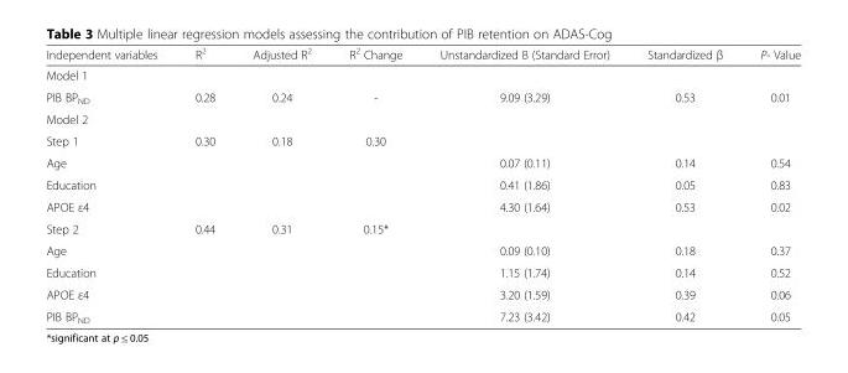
<table><thead><tr><td>Independent variables</td><td>R<sup>2</sup></td><td>Adjusted R<sup>2</sup></td><td>R<sup>2</sup> Change</td><td>Unstandardized B (Standard Error)</td><td>Standardized β</td><td>P- Value</td></tr></thead><tbody><tr><td colspan="7">Model 1</td></tr><tr><td>PIB BP<sub>ND</sub></td><td>0.28</td><td>0.24</td><td>-</td><td>9.09 (3.29)</td><td>0.53</td><td>0.01</td></tr><tr><td colspan="7">Model 2</td></tr><tr><td>Step 1</td><td>0.30</td><td>0.18</td><td>0.30</td><td></td><td></td><td></td></tr><tr><td>Age</td><td></td><td></td><td></td><td>0.07 (0.11)</td><td>0.14</td><td>0.54</td></tr><tr><td>Education</td><td></td><td></td><td></td><td>0.41 (1.86)</td><td>0.05</td><td>0.83</td></tr><tr><td>APOE ε4</td><td></td><td></td><td></td><td>4.30 (1.64)</td><td>0.53</td><td>0.02</td></tr><tr><td>Step 2</td><td>0.44</td><td>0.31</td><td>0.15*</td><td></td><td></td><td></td></tr><tr><td>Age</td><td></td><td></td><td></td><td>0.09 (0.10)</td><td>0.18</td><td>0.37</td></tr><tr><td>Education</td><td></td><td></td><td></td><td>1.15 (1.74)</td><td>0.14</td><td>0.52</td></tr><tr><td>APOE ε4</td><td></td><td></td><td></td><td>3.20 (1.59)</td><td>0.39</td><td>0.06</td></tr><tr><td>PIB BP<sub>ND</sub></td><td></td><td></td><td></td><td>7.23 (3.42)</td><td>0.42</td><td>0.05</td></tr></tbody></table>